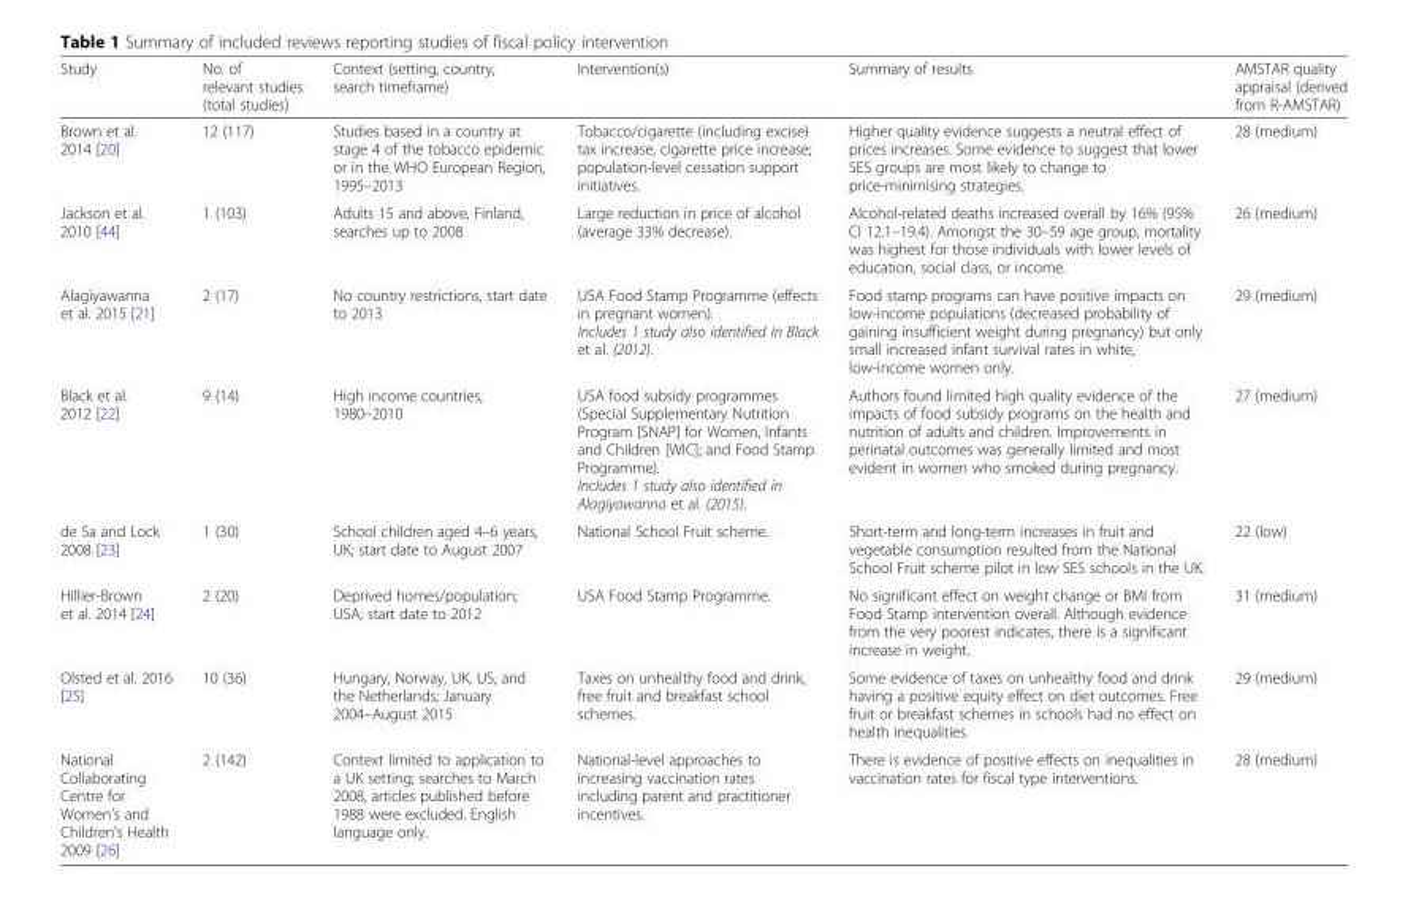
<table><thead><tr><td>Study</td><td>No. of relevant studies (total studies)</td><td>Context (setting, country, search timeframe)</td><td>Intervention(s)</td><td>Summary of results</td><td>AMSTAR quality appraisal (derived from R-AMSTAR)</td></tr></thead><tbody><tr><td>Brown et al. 2014 [20]</td><td>12 (117)</td><td>Studies based in a country at stage 4 of the tobacco epidemic or in the WHO European Region, 1995–2013</td><td>Tobacco/cigarette (including excise) tax increase, cigarette price increase; population-level cessation support initiatives.</td><td>Higher quality evidence suggests a neutral effect of prices increases. Some evidence to suggest that lower SES groups are most likely to change to price-minimising strategies.</td><td>28 (medium)</td></tr><tr><td>Jackson et al. 2010 [44]</td><td>1 (103)</td><td>Adults 15 and above, Finland, searches up to 2008</td><td>Large reduction in price of alcohol (average 33% decrease).</td><td>Alcohol-related deaths increased overall by 16% (95% CI 12.1–19.4). Amongst the 30–59 age group, mortality was highest for those individuals with lower levels of education, social class, or income.</td><td>26 (medium)</td></tr><tr><td>Alagiyawanna et al. 2015 [21]</td><td>2 (17)</td><td>No country restrictions, start date to 2013</td><td>USA Food Stamp Programme (effects in pregnant women). Includes 1 study also identified in Black et al. (2012).</td><td>Food stamp programs can have positive impacts on low-income populations (decreased probability of gaining insufficient weight during pregnancy) but only small increased infant survival rates in white, low-income women only.</td><td>29 (medium)</td></tr><tr><td>Black et al. 2012 [22]</td><td>9 (14)</td><td>High income countries, 1980–2010</td><td>USA food subsidy programmes (Special Supplementary Nutrition Program [SNAP] for Women, Infants and Children [WIC]; and Food Stamp Programme). Includes 1 study also identified in Alagiyawanna et al. (2015).</td><td>Authors found limited high quality evidence of the impacts of food subsidy programs on the health and nutrition of adults and children. Improvements in perinatal outcomes was generally limited and most evident in women who smoked during pregnancy.</td><td>27 (medium)</td></tr><tr><td>de Sa and Lock 2008 [23]</td><td>1 (30)</td><td>School children aged 4–6 years, UK; start date to August 2007</td><td>National School Fruit scheme.</td><td>Short-term and long-term increases in fruit and vegetable consumption resulted from the National School Fruit scheme pilot in low SES schools in the UK.</td><td>22 (low)</td></tr><tr><td>Hillier-Brown et al. 2014 [24]</td><td>2 (20)</td><td>Deprived homes/population; USA; start date to 2012</td><td>USA Food Stamp Programme.</td><td>No significant effect on weight change or BMI from Food Stamp intervention overall. Although evidence from the very poorest indicates, there is a significant increase in weight.</td><td>31 (medium)</td></tr><tr><td>Olsted et al. 2016 [25]</td><td>10 (36)</td><td>Hungary, Norway, UK, US, and the Netherlands; January 2004–August 2015</td><td>Taxes on unhealthy food and drink, free fruit and breakfast school schemes.</td><td>Some evidence of taxes on unhealthy food and drink having a positive equity effect on diet outcomes. Free fruit or breakfast schemes in schools had no effect on health inequalities.</td><td>29 (medium)</td></tr><tr><td>National Collaborating Centre for Women’s and Children’s Health 2009 [26]</td><td>2 (142)</td><td>Context limited to application to a UK setting; searches to March 2008, articles published before 1988 were excluded. English language only.</td><td>National-level approaches to increasing vaccination rates including parent and practitioner incentives.</td><td>There is evidence of positive effects on inequalities in vaccination rates for fiscal type interventions.</td><td>28 (medium)</td></tr></tbody></table>